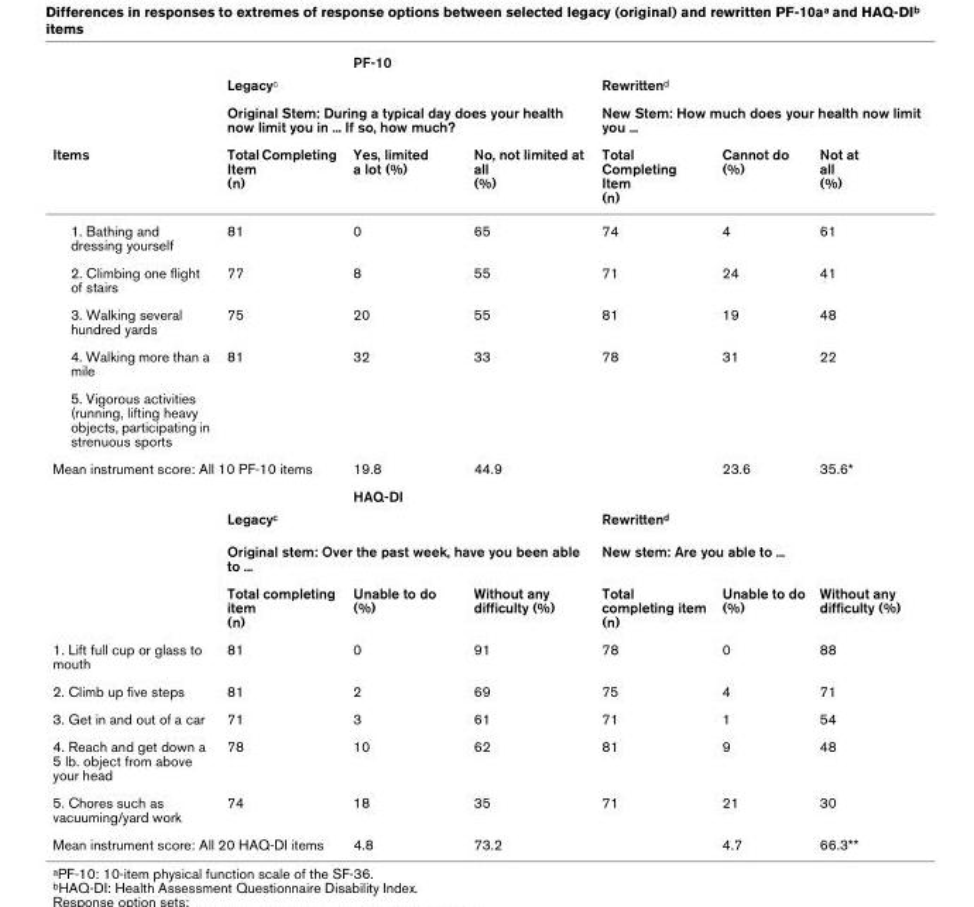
<table><thead><tr><td rowspan="4">Items</td><td></td><td colspan="4">PF-10</td><td></td></tr><tr><td rowspan="2" colspan="3">Legacyc Original Stem: During a typical day does your health now limit you in ... If so, how much?</td><td rowspan="2" colspan="3">Rewrittend New Stem: How much does your health now limit you ...</td></tr><tr></tr><tr><td>Total Completing Item (n)</td><td>Yes, limited a lot (%)</td><td>No, not limited at all (%)</td><td>Total Completing Item (n)</td><td>Cannot do (%)</td><td>Not at all (%)</td></tr></thead><tbody><tr><td>1. Bathing and dressing yourself</td><td>81</td><td>0</td><td>65</td><td>74</td><td>4</td><td>61</td></tr><tr><td>2. Climbing one flight of stairs</td><td>77</td><td>8</td><td>55</td><td>71</td><td>24</td><td>41</td></tr><tr><td>3. Walking several hundred yards</td><td>75</td><td>20</td><td>55</td><td>81</td><td>19</td><td>48</td></tr><tr><td>4. Walking more than a mile</td><td>81</td><td>32</td><td>33</td><td>78</td><td>31</td><td>22</td></tr><tr><td colspan="7">5. Vigorous activities (running, lifting heavy objects, participating in strenuous sports</td></tr><tr><td colspan="2">Mean instrument score: All 10 PF-10 items</td><td>19.8</td><td>44.9</td><td></td><td>23.6</td><td>35.6*</td></tr><tr><td></td><td></td><td colspan="2">HAQ-DI</td><td></td><td></td><td></td></tr><tr><td></td><td colspan="3">Legacyc</td><td colspan="3">Rewrittend</td></tr><tr><td></td><td colspan="3">Original stem: Over the past week, have you been able to ...</td><td colspan="3">New stem: Are you able to ...</td></tr><tr><td></td><td>Total completing item (n)</td><td>Unable to do (%)</td><td>Without any difficulty (%)</td><td>Total completing item (n)</td><td>Unable to do (%)</td><td>Without any difficulty (%)</td></tr><tr><td>1. Lift full cup or glass to mouth</td><td>81</td><td>0</td><td>91</td><td>78</td><td>0</td><td>88</td></tr><tr><td>2. Climb up five steps</td><td>81</td><td>2</td><td>69</td><td>75</td><td>4</td><td>71</td></tr><tr><td>3. Get in and out of a car</td><td>71</td><td>3</td><td>61</td><td>71</td><td>1</td><td>54</td></tr><tr><td>4. Reach and get down a 5 lb. object from above your head</td><td>78</td><td>10</td><td>62</td><td>81</td><td>9</td><td>48</td></tr><tr><td>5. Chores such as vacuuming/yard work</td><td>74</td><td>18</td><td>35</td><td>71</td><td>21</td><td>30</td></tr><tr><td colspan="2">Mean instrument score: All 20 HAQ-DI items</td><td>4.8</td><td>73.2</td><td></td><td>4.7</td><td>66.3**</td></tr></tbody></table>